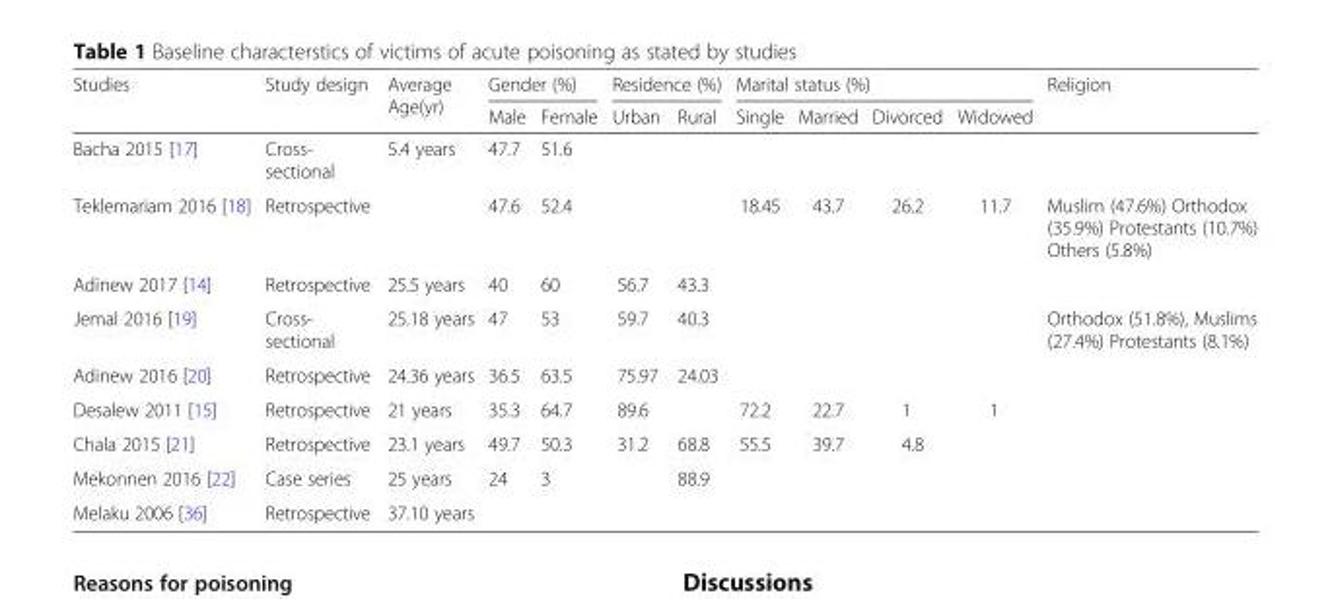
<table><thead><tr><td rowspan="2">Studies</td><td rowspan="2">Study design</td><td rowspan="2">Average Age(yr)</td><td colspan="2">Gender (%)</td><td colspan="2">Residence (%)</td><td colspan="4">Marital status (%)</td><td rowspan="2">Religion</td></tr><tr><td>Male</td><td>Female</td><td>Urban</td><td>Rural</td><td>Single</td><td>Married</td><td>Divorced</td><td>Widowed</td></tr></thead><tbody><tr><td>Bacha 2015 [17]</td><td>Cross- sectional</td><td>5.4 years</td><td>47.7</td><td>51.6</td><td></td><td></td><td></td><td></td><td></td><td></td><td></td></tr><tr><td>Teklemariam 2016 [18]</td><td>Retrospective</td><td></td><td>47.6</td><td>52.4</td><td></td><td></td><td>18.45</td><td>43.7</td><td>26.2</td><td>11.7</td><td>Muslim (47.6%) Orthodox (35.9%) Protestants (10.7%) Others (5.8%)</td></tr><tr><td>Adinew 2017 [14]</td><td>Retrospective</td><td>25.5 years</td><td>40</td><td>60</td><td>56.7</td><td>43.3</td><td></td><td></td><td></td><td></td><td></td></tr><tr><td>Jemal 2016 [19]</td><td>Cross- sectional</td><td>25.18 years</td><td>47</td><td>53</td><td>59.7</td><td>40.3</td><td></td><td></td><td></td><td></td><td>Orthodox (51.8%), Muslims (27.4%) Protestants (8.1%)</td></tr><tr><td>Adinew 2016 [20]</td><td>Retrospective</td><td>24.36 years</td><td>36.5</td><td>63.5</td><td>75.97</td><td>24.03</td><td></td><td></td><td></td><td></td><td></td></tr><tr><td>Desalew 2011 [15]</td><td>Retrospective</td><td>21 years</td><td>35.3</td><td>64.7</td><td>89.6</td><td></td><td>72.2</td><td>22.7</td><td>1</td><td>1</td><td></td></tr><tr><td>Chala 2015 [21]</td><td>Retrospective</td><td>23.1 years</td><td>49.7</td><td>50.3</td><td>31.2</td><td>68.8</td><td>55.5</td><td>39.7</td><td>4.8</td><td></td><td></td></tr><tr><td>Mekonnen 2016 [22]</td><td>Case series</td><td>25 years</td><td>24</td><td>3</td><td></td><td>88.9</td><td></td><td></td><td></td><td></td><td></td></tr><tr><td>Melaku 2006 [36]</td><td>Retrospective</td><td>37.10 years</td><td></td><td></td><td></td><td></td><td></td><td></td><td></td><td></td><td></td></tr></tbody></table>